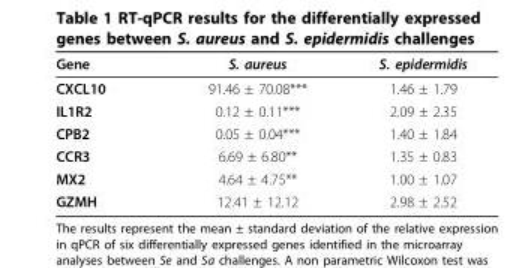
<table><thead><tr><td>Gene</td><td>S. aureus</td><td>S. epidermidis</td></tr></thead><tbody><tr><td>CXCL10</td><td>91.46 ± 70.08***</td><td>1.46 ± 1.79</td></tr><tr><td>IL1R2</td><td>0.12 ± 0.11***</td><td>2.09 ± 2.35</td></tr><tr><td>CPB2</td><td>0.05 ± 0.04***</td><td>1.40 ± 1.84</td></tr><tr><td>CCR3</td><td>6.69 ± 6.80**</td><td>1.35 ± 0.83</td></tr><tr><td>MX2</td><td>4.64 ± 4.75**</td><td>1.00 ± 1.07</td></tr><tr><td>GZMH</td><td>12.41 ± 12.12</td><td>2.98 ± 2.52</td></tr></tbody></table>